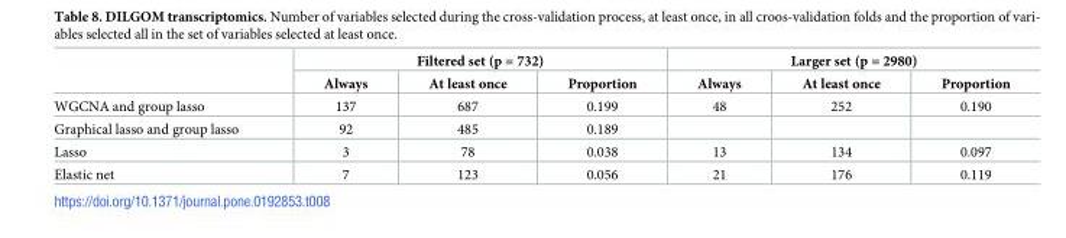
<table><thead><tr><td rowspan="2"></td><td colspan="3">Filtered set (p = 732)</td><td colspan="3">Larger set (p = 2980)</td></tr><tr><td>Always</td><td>At least once</td><td>Proportion</td><td>Always</td><td>At least once</td><td>Proportion</td></tr></thead><tbody><tr><td>WGCNA and group lasso</td><td>137</td><td>687</td><td>0.199</td><td>48</td><td>252</td><td>0.190</td></tr><tr><td>Graphical lasso and group lasso</td><td>92</td><td>485</td><td>0.189</td><td></td><td></td><td></td></tr><tr><td>Lasso</td><td>3</td><td>78</td><td>0.038</td><td>13</td><td>134</td><td>0.097</td></tr><tr><td>Elastic net</td><td>7</td><td>123</td><td>0.056</td><td>21</td><td>176</td><td>0.119</td></tr></tbody></table>